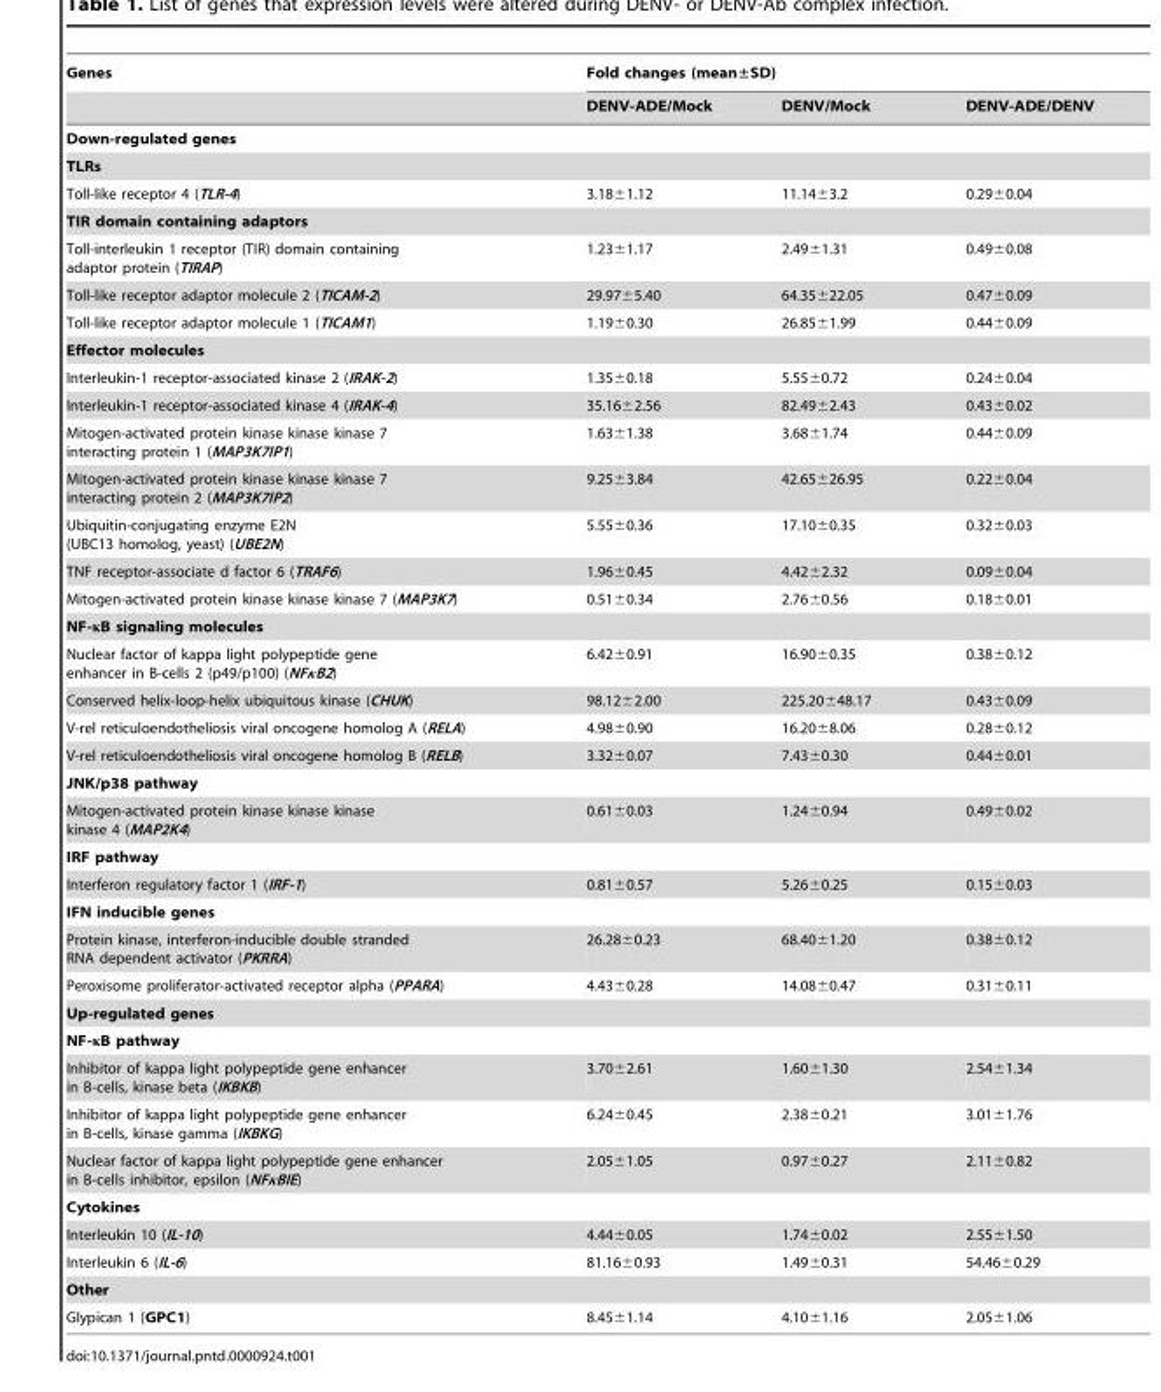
<table><thead><tr><td rowspan="2">Genes</td><td colspan="3">Fold changes (mean±SD)</td></tr><tr><td>DENV-ADE/Mock</td><td>DENV/Mock</td><td>DENV-ADE/DENV</td></tr></thead><tbody><tr><td colspan="4">Down-regulated genes</td></tr><tr><td colspan="4">TLRs</td></tr><tr><td>Toll-like receptor 4 (TLR-4)</td><td>3.18±1.12</td><td>11.14±3.2</td><td>0.29±0.04</td></tr><tr><td colspan="4">TIR domain containing adaptors</td></tr><tr><td>Toll-interleukin 1 receptor (TIR) domain containing adaptor protein (TIRAP)</td><td>1.23±1.17</td><td>2.49±1.31</td><td>0.49±0.08</td></tr><tr><td>Toll-like receptor adaptor molecule 2 (TICAM-2)</td><td>29.97±5.40</td><td>64.35±22.05</td><td>0.47±0.09</td></tr><tr><td>Toll-like receptor adaptor molecule 1 (TICAM1)</td><td>1.19±0.30</td><td>26.85±1.99</td><td>0.44±0.09</td></tr><tr><td colspan="4">Effector molecules</td></tr><tr><td>Interleukin-1 receptor-associated kinase 2 (IRAK-2)</td><td>1.35±0.18</td><td>5.55±0.72</td><td>0.24±0.04</td></tr><tr><td>Interleukin-1 receptor-associated kinase 4 (IRAK-4)</td><td>35.16±2.56</td><td>82.49±2.43</td><td>0.43±0.02</td></tr><tr><td>Mitogen-activated protein kinase kinase kinase 7 interacting protein 1 (MAP3K7IP1)</td><td>1.63±1.38</td><td>3.68±1.74</td><td>0.44±0.09</td></tr><tr><td>Mitogen-activated protein kinase kinase kinase 7 interacting protein 2 (MAP3K7IP2)</td><td>9.25±3.84</td><td>42.65±26.95</td><td>0.22±0.04</td></tr><tr><td>Ubiquitin-conjugating enzyme E2N (UBC13 homolog, yeast) (UBE2N)</td><td>5.55±0.36</td><td>17.10±0.35</td><td>0.32±0.03</td></tr><tr><td>TNF receptor-associate d factor 6 (TRAF6)</td><td>1.96±0.45</td><td>4.42±2.32</td><td>0.09±0.04</td></tr><tr><td>Mitogen-activated protein kinase kinase kinase 7 (MAP3K7)</td><td>0.51±0.34</td><td>2.76±0.56</td><td>0.18±0.01</td></tr><tr><td colspan="4">NF-κB signaling molecules</td></tr><tr><td>Nuclear factor of kappa light polypeptide gene enhancer in B-cells 2 (p49/p100) (NFκB2)</td><td>6.42±0.91</td><td>16.90±0.35</td><td>0.38±0.12</td></tr><tr><td>Conserved helix-loop-helix ubiquitous kinase (CHUK)</td><td>98.12±2.00</td><td>225.20±48.17</td><td>0.43±0.09</td></tr><tr><td>V-rel reticuloendotheliosis viral oncogene homolog A (RELA)</td><td>4.98±0.90</td><td>16.20±8.06</td><td>0.28±0.12</td></tr><tr><td>V-rel reticuloendotheliosis viral oncogene homolog B (RELB)</td><td>3.32±0.07</td><td>7.43±0.30</td><td>0.44±0.01</td></tr><tr><td colspan="4">JNK/p38 pathway</td></tr><tr><td>Mitogen-activated protein kinase kinase kinase kinase 4 (MAP2K4)</td><td>0.61±0.03</td><td>1.24±0.94</td><td>0.49±0.02</td></tr><tr><td colspan="4">IRF pathway</td></tr><tr><td>Interferon regulatory factor 1 (IRF-1)</td><td>0.81±0.57</td><td>5.26±0.25</td><td>0.15±0.03</td></tr><tr><td colspan="4">IFN inducible genes</td></tr><tr><td>Protein kinase, interferon-inducible double stranded RNA dependent activator (PKRRA)</td><td>26.28±0.23</td><td>68.40±1.20</td><td>0.38±0.12</td></tr><tr><td>Peroxisome proliferator-activated receptor alpha (PPARA)</td><td>4.43±0.28</td><td>14.08±0.47</td><td>0.31±0.11</td></tr><tr><td colspan="4">Up-regulated genes</td></tr><tr><td colspan="4">NF-κB pathway</td></tr><tr><td>Inhibitor of kappa light polypeptide gene enhancer in B-cells, kinase beta (IKBKB)</td><td>3.70±2.61</td><td>1.60±1.30</td><td>2.54±1.34</td></tr><tr><td>Inhibitor of kappa light polypeptide gene enhancer in B-cells, kinase gamma (IKBKG)</td><td>6.24±0.45</td><td>2.38±0.21</td><td>3.01±1.76</td></tr><tr><td>Nuclear factor of kappa light polypeptide gene enhancer in B-cells inhibitor, epsilon (NFκBIE)</td><td>2.05±1.05</td><td>0.97±0.27</td><td>2.11±0.82</td></tr><tr><td colspan="4">Cytokines</td></tr><tr><td>Interleukin 10 (IL-10)</td><td>4.44±0.05</td><td>1.74±0.02</td><td>2.55±1.50</td></tr><tr><td>Interleukin 6 (IL-6)</td><td>81.16±0.93</td><td>1.49±0.31</td><td>54.46±0.29</td></tr><tr><td colspan="4">Other</td></tr><tr><td>Glypican 1 (GPC1)</td><td>8.45±1.14</td><td>4.10±1.16</td><td>2.05±1.06</td></tr></tbody></table>